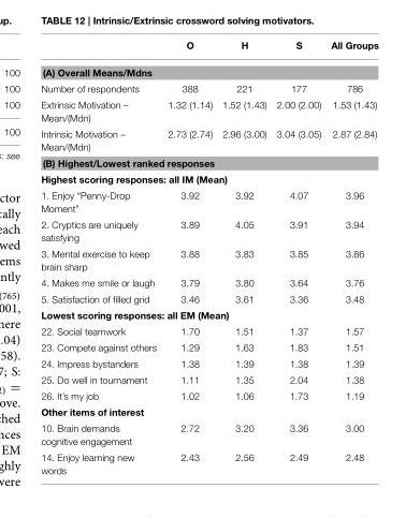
<table><thead><tr><td></td><td>O</td><td>H</td><td>S</td><td>All Groups</td></tr></thead><tbody><tr><td colspan="5">(A) Overall Means/Mdns</td></tr><tr><td>Number of respondents</td><td>388</td><td>221</td><td>177</td><td>786</td></tr><tr><td>Extrinsic Motivation – Mean/(Mdn)</td><td>1.32 (1.14)</td><td>1.52 (1.43)</td><td>2.00 (2.00)</td><td>1.53 (1.43)</td></tr><tr><td>Intrinsic Motivation – Mean/(Mdn)</td><td>2.73 (2.74)</td><td>2.96 (3.00)</td><td>3.04 (3.05)</td><td>2.87 (2.84)</td></tr><tr><td colspan="5">(B) Highest/Lowest ranked responses</td></tr><tr><td colspan="5">Highest scoring responses: all IM (Mean)</td></tr><tr><td>1. Enjoy “Penny-Drop Moment”</td><td>3.92</td><td>3.92</td><td>4.07</td><td>3.96</td></tr><tr><td>2. Cryptics are uniquely satisfying</td><td>3.89</td><td>4.05</td><td>3.91</td><td>3.94</td></tr><tr><td>3. Mental exercise to keep brain sharp</td><td>3.88</td><td>3.83</td><td>3.85</td><td>3.86</td></tr><tr><td>4. Makes me smile or laugh</td><td>3.79</td><td>3.80</td><td>3.64</td><td>3.76</td></tr><tr><td>5. Satisfaction of filled grid</td><td>3.46</td><td>3.61</td><td>3.36</td><td>3.48</td></tr><tr><td colspan="5">Lowest scoring responses: all EM (Mean)</td></tr><tr><td>22. Social teamwork</td><td>1.70</td><td>1.51</td><td>1.37</td><td>1.57</td></tr><tr><td>23. Compete against others</td><td>1.29</td><td>1.63</td><td>1.83</td><td>1.51</td></tr><tr><td>24. Impress bystanders</td><td>1.38</td><td>1.39</td><td>1.38</td><td>1.39</td></tr><tr><td>25. Do well in tournament</td><td>1.11</td><td>1.35</td><td>2.04</td><td>1.38</td></tr><tr><td>26. It’s my job</td><td>1.02</td><td>1.06</td><td>1.73</td><td>1.19</td></tr><tr><td colspan="5">Other items of interest</td></tr><tr><td>10. Brain demands cognitive engagement</td><td>2.72</td><td>3.20</td><td>3.36</td><td>3.00</td></tr><tr><td>14. Enjoy learning new words</td><td>2.43</td><td>2.56</td><td>2.49</td><td>2.48</td></tr></tbody></table>